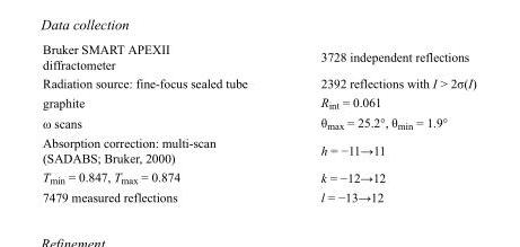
<table><tbody><tr><td>Bruker SMART APEXII diffractometer</td><td>3728 independent reflections</td></tr><tr><td>Radiation source: fine-focus sealed tube</td><td>2392 reflections with I &gt; 2σ(I)</td></tr><tr><td>graphite</td><td>R<sub>int</sub> = 0.061</td></tr><tr><td>ω scans</td><td>θ<sub>max</sub> = 25.2°, θ<sub>min</sub> = 1.9°</td></tr><tr><td>Absorption correction: multi-scan (SADABS; Bruker, 2000)</td><td>h = −11→11</td></tr><tr><td>T<sub>min</sub> = 0.847, T<sub>max</sub> = 0.874</td><td>k = −12→12</td></tr><tr><td>7479 measured reflections</td><td>l = −13→12</td></tr></tbody></table>